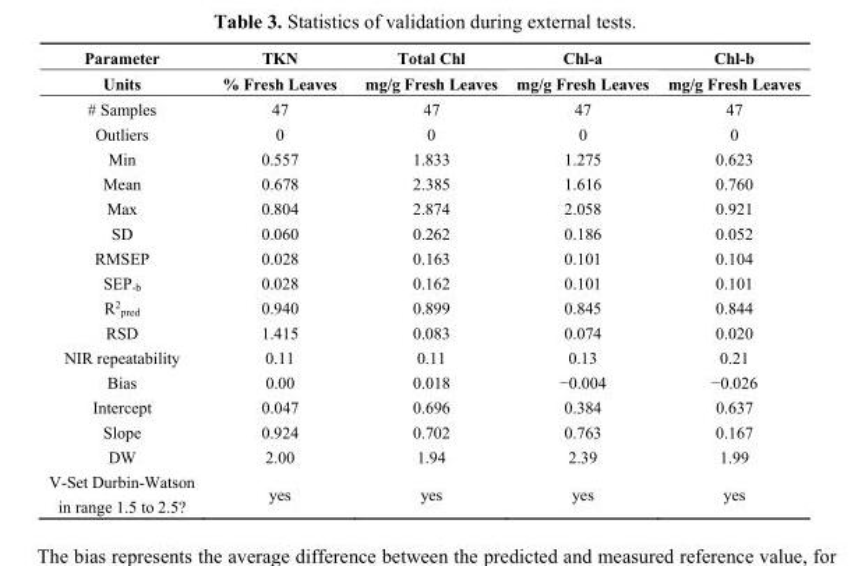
<table><thead><tr><td rowspan="2">Parameter Units</td><td rowspan="2">TKN % Fresh Leaves</td><td rowspan="2">Total Chl mg/g Fresh Leaves</td><td rowspan="2">Chl-a mg/g Fresh Leaves</td><td rowspan="2">Chl-b mg/g Fresh Leaves</td></tr><tr></tr></thead><tbody><tr><td># Samples</td><td>47</td><td>47</td><td>47</td><td>47</td></tr><tr><td>Outliers</td><td>0</td><td>0</td><td>0</td><td>0</td></tr><tr><td>Min</td><td>0.557</td><td>1.833</td><td>1.275</td><td>0.623</td></tr><tr><td>Mean</td><td>0.678</td><td>2.385</td><td>1.616</td><td>0.760</td></tr><tr><td>Max</td><td>0.804</td><td>2.874</td><td>2.058</td><td>0.921</td></tr><tr><td>SD</td><td>0.060</td><td>0.262</td><td>0.186</td><td>0.052</td></tr><tr><td>RMSEP</td><td>0.028</td><td>0.163</td><td>0.101</td><td>0.104</td></tr><tr><td>SEP<sub>-b</sub></td><td>0.028</td><td>0.162</td><td>0.101</td><td>0.101</td></tr><tr><td>R<sup>2</sup><sub>pred</sub></td><td>0.940</td><td>0.899</td><td>0.845</td><td>0.844</td></tr><tr><td>RSD</td><td>1.415</td><td>0.083</td><td>0.074</td><td>0.020</td></tr><tr><td>NIR repeatability</td><td>0.11</td><td>0.11</td><td>0.13</td><td>0.21</td></tr><tr><td>Bias</td><td>0.00</td><td>0.018</td><td>−0.004</td><td>−0.026</td></tr><tr><td>Intercept</td><td>0.047</td><td>0.696</td><td>0.384</td><td>0.637</td></tr><tr><td>Slope</td><td>0.924</td><td>0.702</td><td>0.763</td><td>0.167</td></tr><tr><td>DW</td><td>2.00</td><td>1.94</td><td>2.39</td><td>1.99</td></tr><tr><td>V-Set Durbin-Watson in range 1.5 to 2.5?</td><td>yes</td><td>yes</td><td>yes</td><td>yes</td></tr></tbody></table>